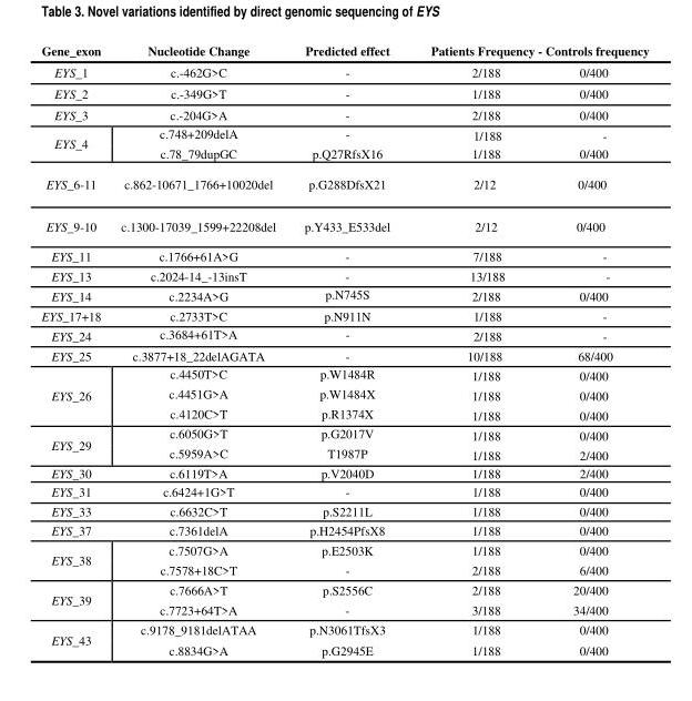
<table><thead><tr><td rowspan="2">Gene_exon EYS_1</td><td rowspan="2">Nucleotide Change c.-462G&gt;C</td><td rowspan="2">Predicted effect -</td><td colspan="2">Patients Frequency - Controls frequency</td></tr><tr><td>2/188</td><td>0/400</td></tr></thead><tbody><tr><td>EYS_2</td><td>c.-349G&gt;T</td><td>-</td><td>1/188</td><td>0/400</td></tr><tr><td>EYS_3</td><td>c.-204G&gt;A</td><td>-</td><td>2/188</td><td>0/400</td></tr><tr><td rowspan="2">EYS_4</td><td>c.748+209delA</td><td>-</td><td>1/188</td><td>-</td></tr><tr><td>c.78_79dupGC</td><td>p.Q27RfsX16</td><td>1/188</td><td>0/400</td></tr><tr><td>EYS_6-11</td><td>c.862-10671_1766+10020del</td><td>p.G288DfsX21</td><td>2/12</td><td>0/400</td></tr><tr><td>EYS_9-10</td><td>c.1300-17039_1599+22208del</td><td>p.Y433_E533del</td><td>2/12</td><td>0/400</td></tr><tr><td>EYS_11</td><td>c.1766+61A&gt;G</td><td>-</td><td>7/188</td><td>-</td></tr><tr><td>EYS_13</td><td>c.2024-14_-13insT</td><td>-</td><td>13/188</td><td>-</td></tr><tr><td>EYS_14</td><td>c.2234A&gt;G</td><td>p.N745S</td><td>2/188</td><td>0/400</td></tr><tr><td>EYS_17+18</td><td>c.2733T&gt;C</td><td>p.N911N</td><td>1/188</td><td>-</td></tr><tr><td>EYS_24</td><td>c.3684+61T&gt;A</td><td>-</td><td>2/188</td><td>-</td></tr><tr><td>EYS_25</td><td>c.3877+18_22delAGATA</td><td>-</td><td>10/188</td><td>68/400</td></tr><tr><td rowspan="3">EYS_26</td><td>c.4450T&gt;C</td><td>p.W1484R</td><td>1/188</td><td>0/400</td></tr><tr><td>c.4451G&gt;A</td><td>p.W1484X</td><td>1/188</td><td>0/400</td></tr><tr><td>c.4120C&gt;T</td><td>p.R1374X</td><td>1/188</td><td>0/400</td></tr><tr><td rowspan="2">EYS_29</td><td>c.6050G&gt;T</td><td>p.G2017V</td><td>1/188</td><td>0/400</td></tr><tr><td>c.5959A&gt;C</td><td>T1987P</td><td>1/188</td><td>2/400</td></tr><tr><td>EYS_30</td><td>c.6119T&gt;A</td><td>p.V2040D</td><td>1/188</td><td>2/400</td></tr><tr><td>EYS_31</td><td>c.6424+1G&gt;T</td><td>-</td><td>1/188</td><td>0/400</td></tr><tr><td>EYS_33</td><td>c.6632C&gt;T</td><td>p.S2211L</td><td>1/188</td><td>0/400</td></tr><tr><td>EYS_37</td><td>c.7361delA</td><td>p.H2454PfsX8</td><td>1/188</td><td>0/400</td></tr><tr><td rowspan="2">EYS_38</td><td>c.7507G&gt;A</td><td>p.E2503K</td><td>1/188</td><td>0/400</td></tr><tr><td>c.7578+18C&gt;T</td><td>-</td><td>2/188</td><td>6/400</td></tr><tr><td rowspan="2">EYS_39</td><td>c.7666A&gt;T</td><td>p.S2556C</td><td>2/188</td><td>20/400</td></tr><tr><td>c.7723+64T&gt;A</td><td>-</td><td>3/188</td><td>34/400</td></tr><tr><td rowspan="2">EYS_43</td><td>c.9178_9181delATAA</td><td>p.N3061TfsX3</td><td>1/188</td><td>0/400</td></tr><tr><td>c.8834G&gt;A</td><td>p.G2945E</td><td>1/188</td><td>0/400</td></tr></tbody></table>